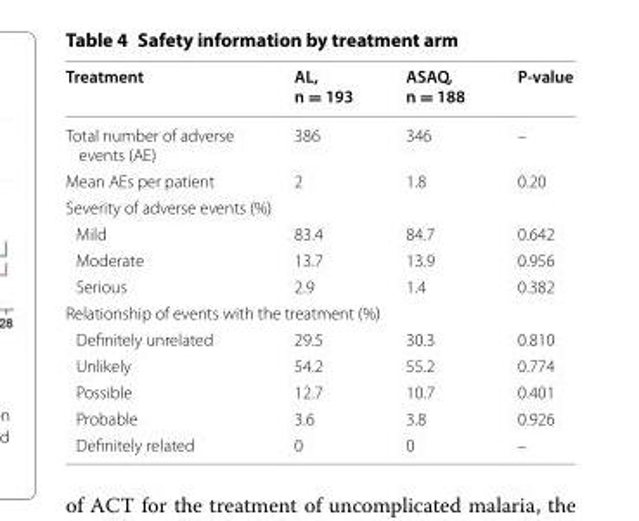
<table><thead><tr><td>Treatment</td><td>AL, n = 193</td><td>ASAQ, n = 188</td><td>P-value</td></tr></thead><tbody><tr><td>Total number of adverse events (AE)</td><td>386</td><td>346</td><td>–</td></tr><tr><td>Mean AEs per patient</td><td>2</td><td>1.8</td><td>0.20</td></tr><tr><td colspan="4">Severity of adverse events (%)</td></tr><tr><td>Mild</td><td>83.4</td><td>84.7</td><td>0.642</td></tr><tr><td>Moderate</td><td>13.7</td><td>13.9</td><td>0.956</td></tr><tr><td>Serious</td><td>2.9</td><td>1.4</td><td>0.382</td></tr><tr><td colspan="4">Relationship of events with the treatment (%)</td></tr><tr><td>Definitely unrelated</td><td>29.5</td><td>30.3</td><td>0.810</td></tr><tr><td>Unlikely</td><td>54.2</td><td>55.2</td><td>0.774</td></tr><tr><td>Possible</td><td>12.7</td><td>10.7</td><td>0.401</td></tr><tr><td>Probable</td><td>3.6</td><td>3.8</td><td>0.926</td></tr><tr><td>Definitely related</td><td>0</td><td>0</td><td>–</td></tr></tbody></table>